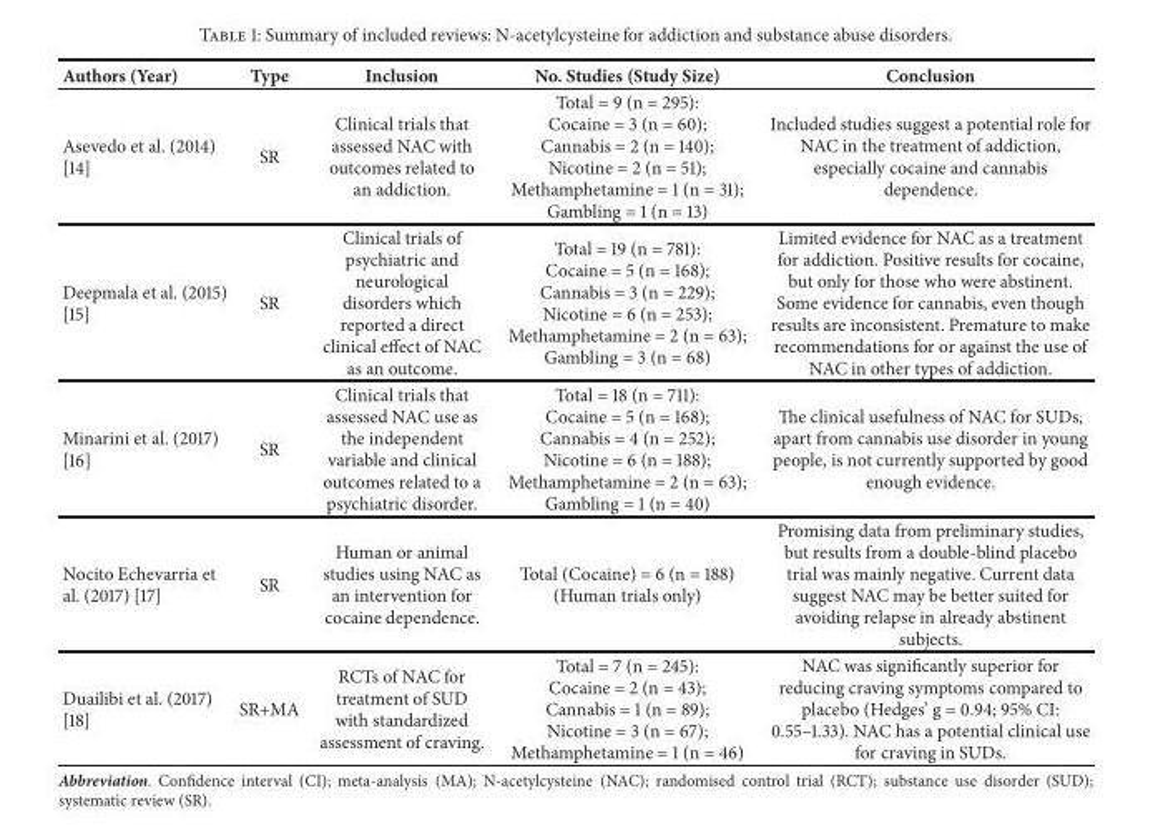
<table><thead><tr><td>Authors (Year)</td><td>Type</td><td>Inclusion</td><td>No. Studies (Study Size)</td><td>Conclusion</td></tr></thead><tbody><tr><td>Asevedo et al. (2014) [14]</td><td>SR</td><td>Clinical trials that assessed NAC with outcomes related to an addiction.</td><td>Total = 9 (n = 295): Cocaine = 3 (n = 60); Cannabis = 2 (n = 140); Nicotine = 2 (n = 51); Methamphetamine = 1 (n = 31); Gambling = 1 (n = 13)</td><td>Included studies suggest a potential role for NAC in the treatment of addiction, especially cocaine and cannabis dependence.</td></tr><tr><td>Deepmala et al. (2015) [15]</td><td>SR</td><td>Clinical trials of psychiatric and neurological disorders which reported a direct clinical effect of NAC as an outcome.</td><td>Total = 19 (n = 781): Cocaine = 5 (n = 168); Cannabis = 3 (n = 229); Nicotine = 6 (n = 253); Methamphetamine = 2 (n = 63); Gambling = 3 (n = 68)</td><td>Limited evidence for NAC as a treatment for addiction. Positive results for cocaine, but only for those who were abstinent. Some evidence for cannabis, even though results are inconsistent. Premature to make recommendations for or against the use of NAC in other types of addiction.</td></tr><tr><td>Minarini et al. (2017) [16]</td><td>SR</td><td>Clinical trials that assessed NAC use as the independent variable and clinical outcomes related to a psychiatric disorder.</td><td>Total = 18 (n = 711): Cocaine = 5 (n = 168); Cannabis = 4 (n = 252); Nicotine = 6 (n = 188); Methamphetamine = 2 (n = 63); Gambling = 1 (n = 40)</td><td>The clinical usefulness of NAC for SUDs, apart from cannabis use disorder in young people, is not currently supported by good enough evidence.</td></tr><tr><td>Nocito Echevarria et al. (2017) [17]</td><td>SR</td><td>Human or animal studies using NAC as an intervention for cocaine dependence.</td><td>Total (Cocaine) = 6 (n = 188) (Human trials only)</td><td>Promising data from preliminary studies, but results from a double-blind placebo trial was mainly negative. Current data suggest NAC may be better suited for avoiding relapse in already abstinent subjects.</td></tr><tr><td>Duailibi et al. (2017) [18]</td><td>SR+MA</td><td>RCTs of NAC for treatment of SUD with standardized assessment of craving.</td><td>Total = 7 (n = 245): Cocaine = 2 (n = 43); Cannabis = 1 (n = 89); Nicotine = 3 (n = 67); Methamphetamine = 1 (n = 46)</td><td>NAC was significantly superior for reducing craving symptoms compared to placebo (Hedges’ g = 0.94; 95% CI: 0.55–1.33). NAC has a potential clinical use for craving in SUDs.</td></tr></tbody></table>